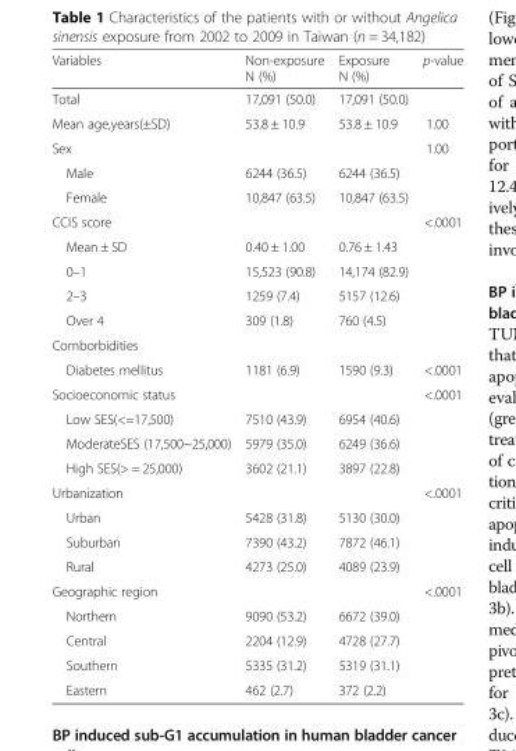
<table><thead><tr><td>Variables</td><td>Non-exposure N (%)</td><td>Exposure N (%)</td><td>p-value</td></tr></thead><tbody><tr><td>Total</td><td>17,091 (50.0)</td><td>17,091 (50.0)</td><td></td></tr><tr><td>Mean age,years(±SD)</td><td>53.8 ± 10.9</td><td>53.8 ± 10.9</td><td>1.00</td></tr><tr><td>Sex</td><td></td><td></td><td>1.00</td></tr><tr><td>Male</td><td>6244 (36.5)</td><td>6244 (36.5)</td><td></td></tr><tr><td>Female</td><td>10,847 (63.5)</td><td>10,847 (63.5)</td><td></td></tr><tr><td>CCIS score</td><td></td><td></td><td>&lt;.0001</td></tr><tr><td>Mean ± SD</td><td>0.40 ± 1.00</td><td>0.76 ± 1.43</td><td></td></tr><tr><td>0–1</td><td>15,523 (90.8)</td><td>14,174 (82.9)</td><td></td></tr><tr><td>2–3</td><td>1259 (7.4)</td><td>5157 (12.6)</td><td></td></tr><tr><td>Over 4</td><td>309 (1.8)</td><td>760 (4.5)</td><td></td></tr><tr><td colspan="4">Comborbidities</td></tr><tr><td>Diabetes mellitus</td><td>1181 (6.9)</td><td>1590 (9.3)</td><td>&lt;.0001</td></tr><tr><td>Socioeconomic status</td><td></td><td></td><td>&lt;.0001</td></tr><tr><td>Low SES(&lt;=17,500)</td><td>7510 (43.9)</td><td>6954 (40.6)</td><td></td></tr><tr><td>ModerateSES (17,500~25,000)</td><td>5979 (35.0)</td><td>6249 (36.6)</td><td></td></tr><tr><td>High SES(&gt; = 25,000)</td><td>3602 (21.1)</td><td>3897 (22.8)</td><td></td></tr><tr><td>Urbanization</td><td></td><td></td><td>&lt;.0001</td></tr><tr><td>Urban</td><td>5428 (31.8)</td><td>5130 (30.0)</td><td></td></tr><tr><td>Suburban</td><td>7390 (43.2)</td><td>7872 (46.1)</td><td></td></tr><tr><td>Rural</td><td>4273 (25.0)</td><td>4089 (23.9)</td><td></td></tr><tr><td>Geographic region</td><td></td><td></td><td>&lt;.0001</td></tr><tr><td>Northern</td><td>9090 (53.2)</td><td>6672 (39.0)</td><td></td></tr><tr><td>Central</td><td>2204 (12.9)</td><td>4728 (27.7)</td><td></td></tr><tr><td>Southern</td><td>5335 (31.2)</td><td>5319 (31.1)</td><td></td></tr><tr><td>Eastern</td><td>462 (2.7)</td><td>372 (2.2)</td><td></td></tr></tbody></table>